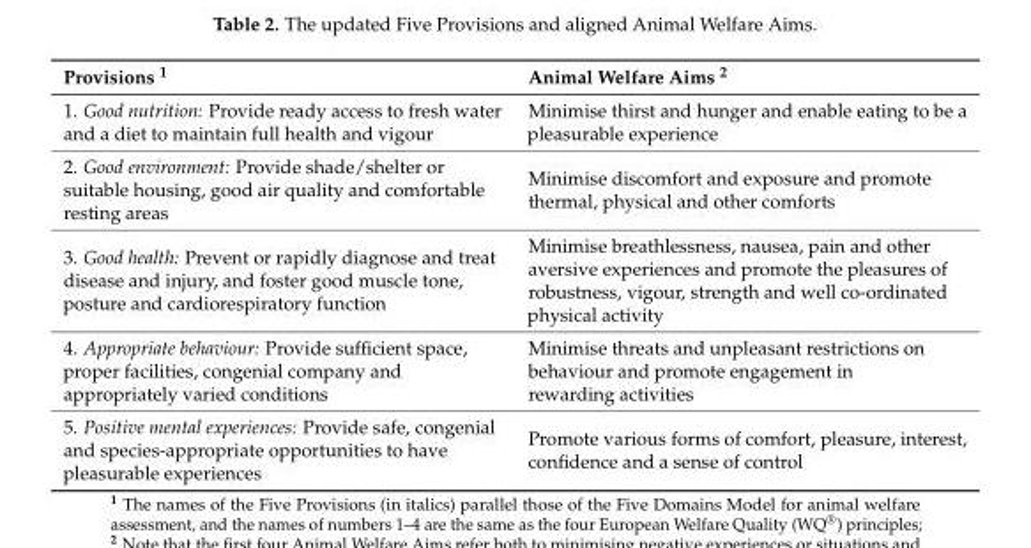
<table><thead><tr><td>Provisions <sup>1</sup></td><td>Animal Welfare Aims <sup>2</sup></td></tr></thead><tbody><tr><td>1. Good nutrition: Provide ready access to fresh water and a diet to maintain full health and vigour</td><td>Minimise thirst and hunger and enable eating to be a pleasurable experience</td></tr><tr><td>2. Good environment: Provide shade/shelter or suitable housing, good air quality and comfortable resting areas</td><td>Minimise discomfort and exposure and promote thermal, physical and other comforts</td></tr><tr><td>3. Good health: Prevent or rapidly diagnose and treat disease and injury, and foster good muscle tone, posture and cardiorespiratory function</td><td>Minimise breathlessness, nausea, pain and other aversive experiences and promote the pleasures of robustness, vigour, strength and well co-ordinated physical activity</td></tr><tr><td>4. Appropriate behaviour: Provide sufficient space, proper facilities, congenial company and appropriately varied conditions</td><td>Minimise threats and unpleasant restrictions on behaviour and promote engagement in rewarding activities</td></tr><tr><td>5. Positive mental experiences: Provide safe, congenial and species-appropriate opportunities to have pleasurable experiences</td><td>Promote various forms of comfort, pleasure, interest, confidence and a sense of control</td></tr></tbody></table>